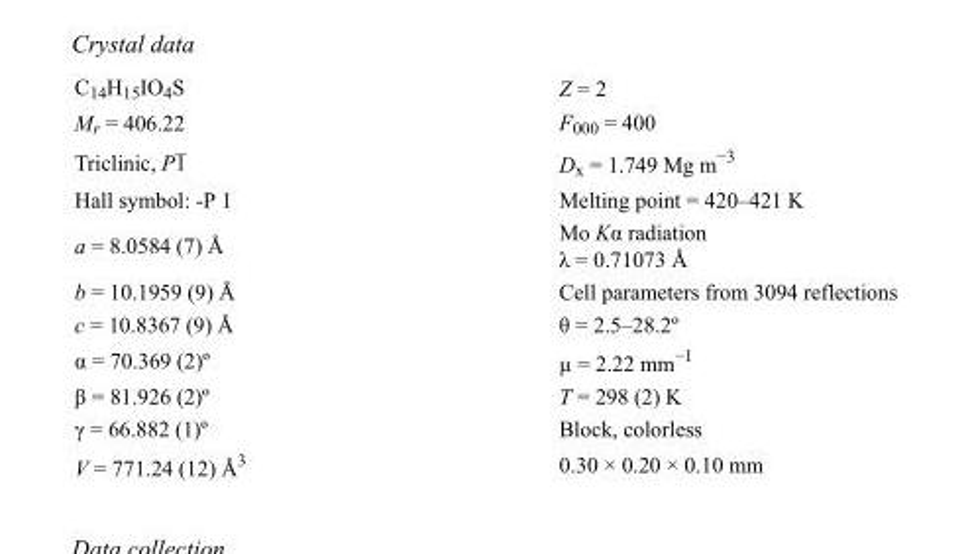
<table><tbody><tr><td>C<sub>14</sub>H<sub>15</sub>IO<sub>4</sub>S</td><td>Z = 2</td></tr><tr><td>M<sub>r</sub> = 406.22</td><td>F<sub>000</sub> = 400</td></tr><tr><td>Triclinic, P1</td><td>D<sub>x</sub> = 1.749 Mg m<sup>−3</sup></td></tr><tr><td>Hall symbol: -P 1</td><td>Melting point = 420–421 K</td></tr><tr><td>a = 8.0584 (7) Å</td><td>Mo Kα radiation λ = 0.71073 Å</td></tr><tr><td>b = 10.1959 (9) Å</td><td>Cell parameters from 3094 reflections</td></tr><tr><td>c = 10.8367 (9) Å</td><td>θ = 2.5–28.2º</td></tr><tr><td>α = 70.369 (2)º</td><td>µ = 2.22 mm<sup>−1</sup></td></tr><tr><td>β = 81.926 (2)º</td><td>T = 298 (2) K</td></tr><tr><td>γ = 66.882 (1)º</td><td>Block, colorless</td></tr><tr><td>V = 771.24 (12) Å<sup>3</sup></td><td>0.30 × 0.20 × 0.10 mm</td></tr></tbody></table>